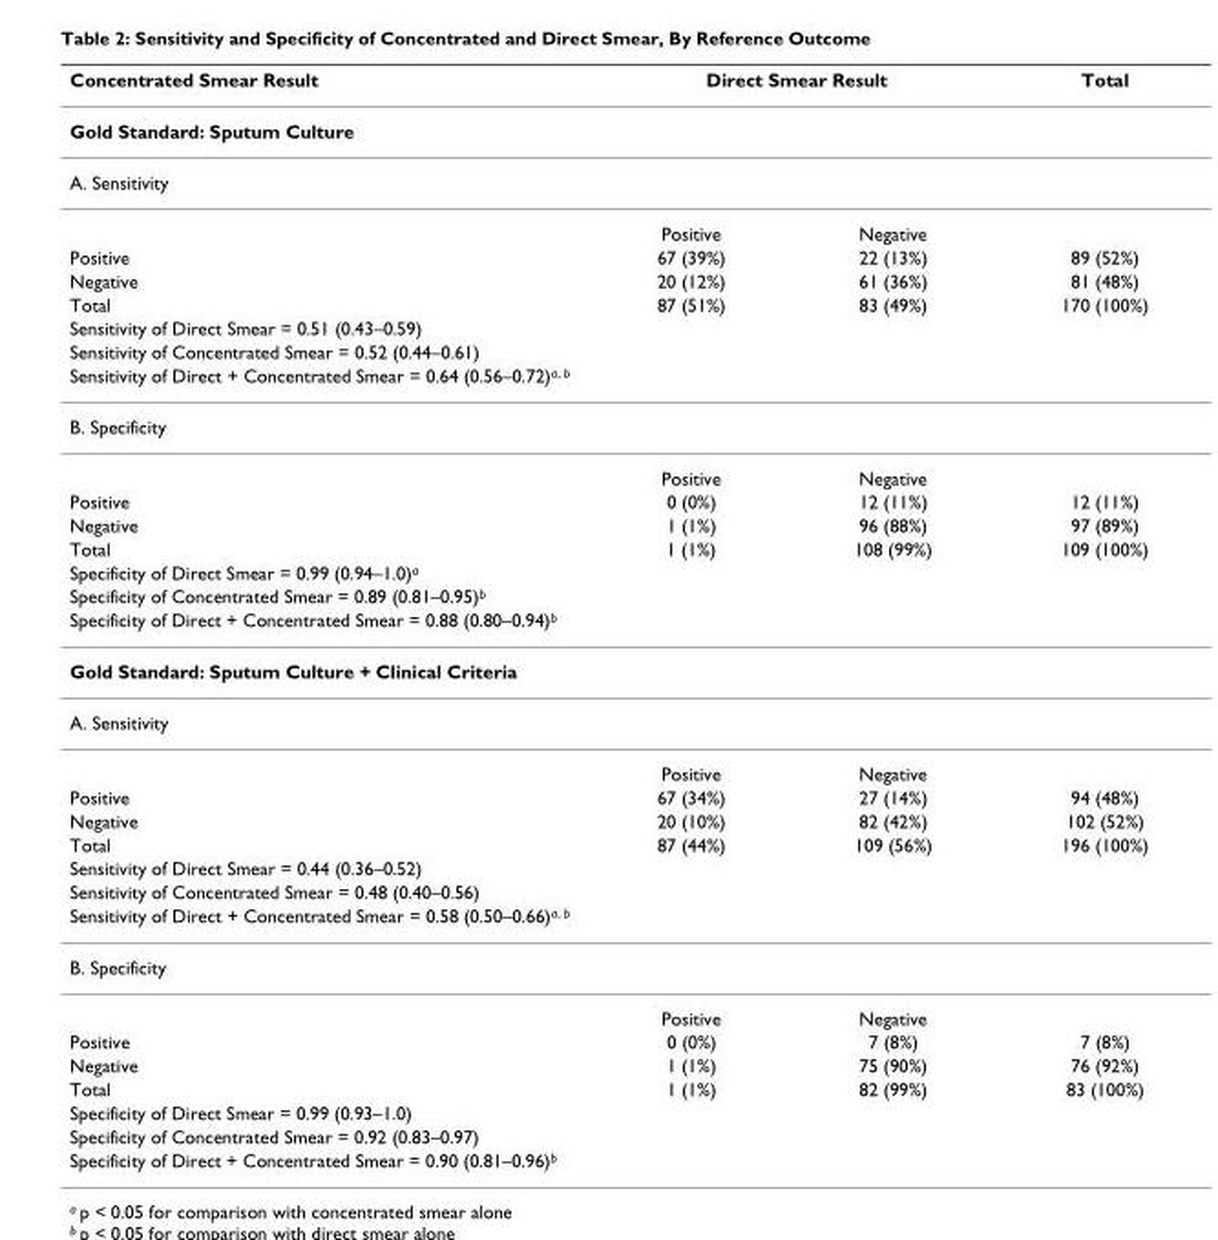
<table><thead><tr><td>Concentrated Smear Result</td><td colspan="2">Direct Smear Result</td><td>Total</td></tr><tr><td colspan="4">Gold Standard: Sputum Culture</td></tr><tr><td>A. Sensitivity</td><td></td><td></td><td></td></tr></thead><tbody><tr><td></td><td>Positive</td><td>Negative</td><td></td></tr><tr><td>Positive</td><td>67 (39%)</td><td>22 (13%)</td><td>89 (52%)</td></tr><tr><td>Negative</td><td>20 (12%)</td><td>61 (36%)</td><td>81 (48%)</td></tr><tr><td>Total</td><td>87 (51%)</td><td>83 (49%)</td><td>170 (100%)</td></tr><tr><td colspan="4">Sensitivity of Direct Smear = 0.51 (0.43–0.59)</td></tr><tr><td colspan="4">Sensitivity of Concentrated Smear = 0.52 (0.44–0.61)</td></tr><tr><td colspan="4">Sensitivity of Direct + Concentrated Smear = 0.64 (0.56–0.72)<sup>a, b</sup></td></tr><tr><td colspan="4">B. Specificity</td></tr><tr><td></td><td>Positive</td><td>Negative</td><td></td></tr><tr><td>Positive</td><td>0 (0%)</td><td>12 (11%)</td><td>12 (11%)</td></tr><tr><td>Negative</td><td>1 (1%)</td><td>96 (88%)</td><td>97 (89%)</td></tr><tr><td>Total</td><td>1 (1%)</td><td>108 (99%)</td><td>109 (100%)</td></tr><tr><td colspan="4">Specificity of Direct Smear = 0.99 (0.94–1.0)<sup>a</sup></td></tr><tr><td colspan="4">Specificity of Concentrated Smear = 0.89 (0.81–0.95)<sup>b</sup></td></tr><tr><td colspan="4">Specificity of Direct + Concentrated Smear = 0.88 (0.80–0.94)<sup>b</sup></td></tr><tr><td colspan="4">Gold Standard: Sputum Culture + Clinical Criteria</td></tr><tr><td colspan="4">A. Sensitivity</td></tr><tr><td></td><td>Positive</td><td>Negative</td><td></td></tr><tr><td>Positive</td><td>67 (34%)</td><td>27 (14%)</td><td>94 (48%)</td></tr><tr><td>Negative</td><td>20 (10%)</td><td>82 (42%)</td><td>102 (52%)</td></tr><tr><td>Total</td><td>87 (44%)</td><td>109 (56%)</td><td>196 (100%)</td></tr><tr><td colspan="4">Sensitivity of Direct Smear = 0.44 (0.36–0.52)</td></tr><tr><td colspan="4">Sensitivity of Concentrated Smear = 0.48 (0.40–0.56)</td></tr><tr><td colspan="4">Sensitivity of Direct + Concentrated Smear = 0.58 (0.50–0.66)<sup>a, b</sup></td></tr><tr><td colspan="4">B. Specificity</td></tr><tr><td></td><td>Positive</td><td>Negative</td><td></td></tr><tr><td>Positive</td><td>0 (0%)</td><td>7 (8%)</td><td>7 (8%)</td></tr><tr><td>Negative</td><td>1 (1%)</td><td>75 (90%)</td><td>76 (92%)</td></tr><tr><td>Total</td><td>1 (1%)</td><td>82 (99%)</td><td>83 (100%)</td></tr><tr><td colspan="4">Specificity of Direct Smear = 0.99 (0.93–1.0)</td></tr><tr><td colspan="4">Specificity of Concentrated Smear = 0.92 (0.83–0.97)</td></tr><tr><td colspan="4">Specificity of Direct + Concentrated Smear = 0.90 (0.81–0.96)<sup>b</sup></td></tr></tbody></table>